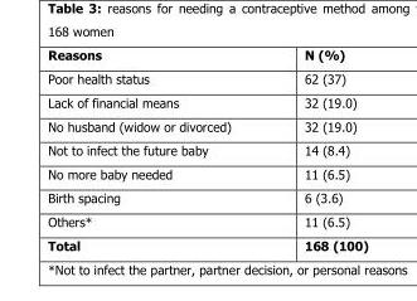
<table><thead><tr><td>Reasons</td><td>N (%)</td></tr></thead><tbody><tr><td>Poor health status</td><td>62 (37)</td></tr><tr><td>Lack of financial means</td><td>32 (19.0)</td></tr><tr><td>No husband (widow or divorced)</td><td>32 (19.0)</td></tr><tr><td>Not to infect the future baby</td><td>14 (8.4)</td></tr><tr><td>No more baby needed</td><td>11 (6.5)</td></tr><tr><td>Birth spacing</td><td>6 (3.6)</td></tr><tr><td>Others*</td><td>11 (6.5)</td></tr><tr><td>Total</td><td>168 (100)</td></tr></tbody></table>